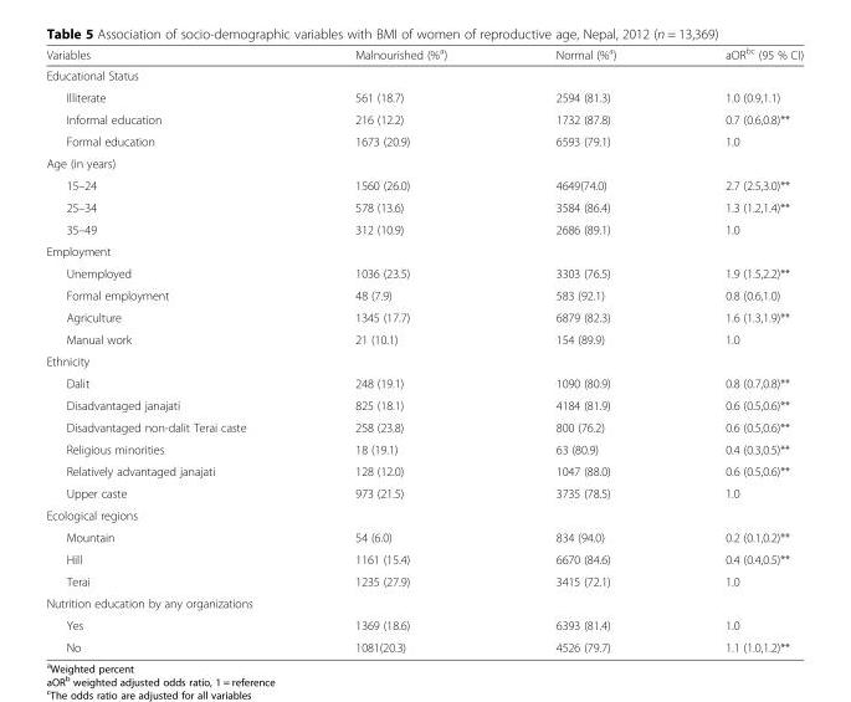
<table><thead><tr><td>Variables</td><td>Malnourished (%<sup>a</sup>)</td><td>Normal (%<sup>a</sup>)</td><td>aOR<sup>bc</sup> (95 % CI)</td></tr></thead><tbody><tr><td colspan="4">Educational Status</td></tr><tr><td>Illiterate</td><td>561 (18.7)</td><td>2594 (81.3)</td><td>1.0 (0.9,1.1)</td></tr><tr><td>Informal education</td><td>216 (12.2)</td><td>1732 (87.8)</td><td>0.7 (0.6,0.8)**</td></tr><tr><td>Formal education</td><td>1673 (20.9)</td><td>6593 (79.1)</td><td>1.0</td></tr><tr><td colspan="4">Age (in years)</td></tr><tr><td>15–24</td><td>1560 (26.0)</td><td>4649(74.0)</td><td>2.7 (2.5,3.0)**</td></tr><tr><td>25–34</td><td>578 (13.6)</td><td>3584 (86.4)</td><td>1.3 (1.2,1.4)**</td></tr><tr><td>35–49</td><td>312 (10.9)</td><td>2686 (89.1)</td><td>1.0</td></tr><tr><td colspan="4">Employment</td></tr><tr><td>Unemployed</td><td>1036 (23.5)</td><td>3303 (76.5)</td><td>1.9 (1.5,2.2)**</td></tr><tr><td>Formal employment</td><td>48 (7.9)</td><td>583 (92.1)</td><td>0.8 (0.6,1.0)</td></tr><tr><td>Agriculture</td><td>1345 (17.7)</td><td>6879 (82.3)</td><td>1.6 (1.3,1.9)**</td></tr><tr><td>Manual work</td><td>21 (10.1)</td><td>154 (89.9)</td><td>1.0</td></tr><tr><td colspan="4">Ethnicity</td></tr><tr><td>Dalit</td><td>248 (19.1)</td><td>1090 (80.9)</td><td>0.8 (0.7,0.8)**</td></tr><tr><td>Disadvantaged janajati</td><td>825 (18.1)</td><td>4184 (81.9)</td><td>0.6 (0.5,0.6)**</td></tr><tr><td>Disadvantaged non-dalit Terai caste</td><td>258 (23.8)</td><td>800 (76.2)</td><td>0.6 (0.5,0.6)**</td></tr><tr><td>Religious minorities</td><td>18 (19.1)</td><td>63 (80.9)</td><td>0.4 (0.3,0.5)**</td></tr><tr><td>Relatively advantaged janajati</td><td>128 (12.0)</td><td>1047 (88.0)</td><td>0.6 (0.5,0.6)**</td></tr><tr><td>Upper caste</td><td>973 (21.5)</td><td>3735 (78.5)</td><td>1.0</td></tr><tr><td colspan="4">Ecological regions</td></tr><tr><td>Mountain</td><td>54 (6.0)</td><td>834 (94.0)</td><td>0.2 (0.1,0.2)**</td></tr><tr><td>Hill</td><td>1161 (15.4)</td><td>6670 (84.6)</td><td>0.4 (0.4,0.5)**</td></tr><tr><td>Terai</td><td>1235 (27.9)</td><td>3415 (72.1)</td><td>1.0</td></tr><tr><td colspan="4">Nutrition education by any organizations</td></tr><tr><td>Yes</td><td>1369 (18.6)</td><td>6393 (81.4)</td><td>1.0</td></tr><tr><td>No</td><td>1081(20.3)</td><td>4526 (79.7)</td><td>1.1 (1.0,1.2)**</td></tr></tbody></table>